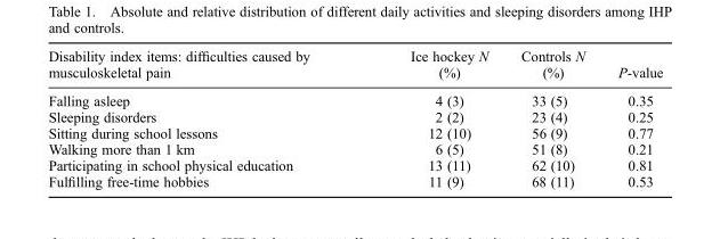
<table><thead><tr><td>Disability index items: difficulties caused by musculoskeletal pain</td><td>Ice hockey N (%)</td><td>Controls N (%)</td><td>P-value</td></tr></thead><tbody><tr><td>Falling asleep</td><td>4 (3)</td><td>33 (5)</td><td>0.35</td></tr><tr><td>Sleeping disorders</td><td>2 (2)</td><td>23 (4)</td><td>0.25</td></tr><tr><td>Sitting during school lessons</td><td>12 (10)</td><td>56 (9)</td><td>0.77</td></tr><tr><td>Walking more than 1 km</td><td>6 (5)</td><td>51 (8)</td><td>0.21</td></tr><tr><td>Participating in school physical education</td><td>13 (11)</td><td>62 (10)</td><td>0.81</td></tr><tr><td>Fulfilling free-time hobbies</td><td>11 (9)</td><td>68 (11)</td><td>0.53</td></tr></tbody></table>